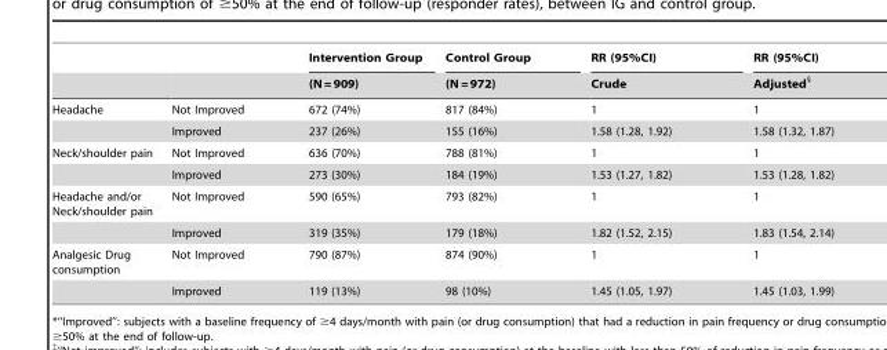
<table><thead><tr><td rowspan="2"></td><td rowspan="2"></td><td rowspan="2">Intervention Group (N = 909)</td><td rowspan="2">Control Group (N = 972)</td><td rowspan="2">RR (95%CI) Crude</td><td rowspan="2">RR (95%CI) Adjusted§</td></tr><tr></tr></thead><tbody><tr><td rowspan="2">Headache</td><td>Not Improved</td><td>672 (74%)</td><td>817 (84%)</td><td>1</td><td>1</td></tr><tr><td>Improved</td><td>237 (26%)</td><td>155 (16%)</td><td>1.58 (1.28, 1.92)</td><td>1.58 (1.32, 1.87)</td></tr><tr><td rowspan="2">Neck/shoulder pain</td><td>Not Improved</td><td>636 (70%)</td><td>788 (81%)</td><td>1</td><td>1</td></tr><tr><td>Improved</td><td>273 (30%)</td><td>184 (19%)</td><td>1.53 (1.27, 1.82)</td><td>1.53 (1.28, 1.82)</td></tr><tr><td rowspan="2">Headache and/or Neck/shoulder pain</td><td>Not Improved</td><td>590 (65%)</td><td>793 (82%)</td><td>1</td><td>1</td></tr><tr><td>Improved</td><td>319 (35%)</td><td>179 (18%)</td><td>1.82 (1.52, 2.15)</td><td>1.83 (1.54, 2.14)</td></tr><tr><td rowspan="2">Analgesic Drug consumption</td><td>Not Improved</td><td>790 (87%)</td><td>874 (90%)</td><td>1</td><td>1</td></tr><tr><td>Improved</td><td>119 (13%)</td><td>98 (10%)</td><td>1.45 (1.05, 1.97)</td><td>1.45 (1.03, 1.99)</td></tr></tbody></table>